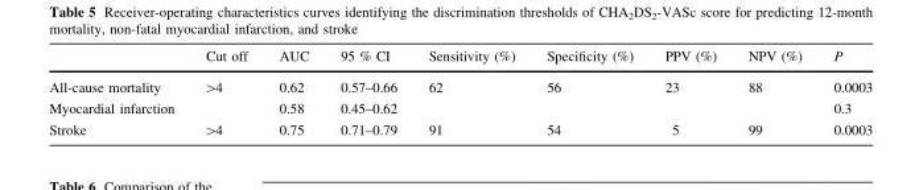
<table><thead><tr><td></td><td>Cut off</td><td>AUC</td><td>95 % CI</td><td>Sensitivity (%)</td><td>Specificity (%)</td><td>PPV (%)</td><td>NPV (%)</td><td>P</td></tr></thead><tbody><tr><td>All-cause mortality</td><td>&gt;4</td><td>0.62</td><td>0.57–0.66</td><td>62</td><td>56</td><td>23</td><td>88</td><td>0.0003</td></tr><tr><td>Myocardial infarction</td><td></td><td>0.58</td><td>0.45–0.62</td><td></td><td></td><td></td><td></td><td>0.3</td></tr><tr><td>Stroke</td><td>&gt;4</td><td>0.75</td><td>0.71–0.79</td><td>91</td><td>54</td><td>5</td><td>99</td><td>0.0003</td></tr></tbody></table>